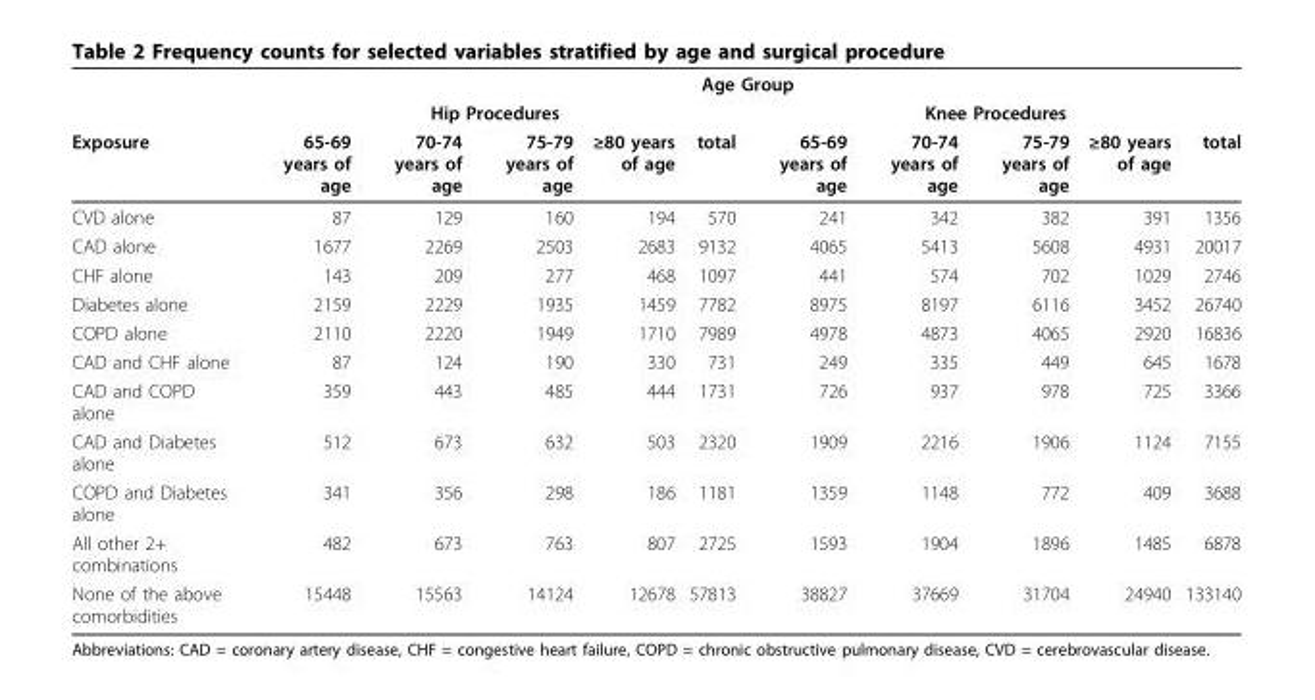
<table><thead><tr><td rowspan="3">Exposure</td><td colspan="10">Age Group</td></tr><tr><td colspan="5">Hip Procedures</td><td colspan="5">Knee Procedures</td></tr><tr><td>65-69 years of age</td><td>70-74 years of age</td><td>75-79 years of age</td><td>≥80 years of age</td><td>total</td><td>65-69 years of age</td><td>70-74 years of age</td><td>75-79 years of age</td><td>≥80 years of age</td><td>total</td></tr></thead><tbody><tr><td>CVD alone</td><td>87</td><td>129</td><td>160</td><td>194</td><td>570</td><td>241</td><td>342</td><td>382</td><td>391</td><td>1356</td></tr><tr><td>CAD alone</td><td>1677</td><td>2269</td><td>2503</td><td>2683</td><td>9132</td><td>4065</td><td>5413</td><td>5608</td><td>4931</td><td>20017</td></tr><tr><td>CHF alone</td><td>143</td><td>209</td><td>277</td><td>468</td><td>1097</td><td>441</td><td>574</td><td>702</td><td>1029</td><td>2746</td></tr><tr><td>Diabetes alone</td><td>2159</td><td>2229</td><td>1935</td><td>1459</td><td>7782</td><td>8975</td><td>8197</td><td>6116</td><td>3452</td><td>26740</td></tr><tr><td>COPD alone</td><td>2110</td><td>2220</td><td>1949</td><td>1710</td><td>7989</td><td>4978</td><td>4873</td><td>4065</td><td>2920</td><td>16836</td></tr><tr><td>CAD and CHF alone</td><td>87</td><td>124</td><td>190</td><td>330</td><td>731</td><td>249</td><td>335</td><td>449</td><td>645</td><td>1678</td></tr><tr><td>CAD and COPD alone</td><td>359</td><td>443</td><td>485</td><td>444</td><td>1731</td><td>726</td><td>937</td><td>978</td><td>725</td><td>3366</td></tr><tr><td>CAD and Diabetes alone</td><td>512</td><td>673</td><td>632</td><td>503</td><td>2320</td><td>1909</td><td>2216</td><td>1906</td><td>1124</td><td>7155</td></tr><tr><td>COPD and Diabetes alone</td><td>341</td><td>356</td><td>298</td><td>186</td><td>1181</td><td>1359</td><td>1148</td><td>772</td><td>409</td><td>3688</td></tr><tr><td>All other 2+ combinations</td><td>482</td><td>673</td><td>763</td><td>807</td><td>2725</td><td>1593</td><td>1904</td><td>1896</td><td>1485</td><td>6878</td></tr><tr><td>None of the above comorbidities</td><td>15448</td><td>15563</td><td>14124</td><td>12678</td><td>57813</td><td>38827</td><td>37669</td><td>31704</td><td>24940</td><td>133140</td></tr></tbody></table>